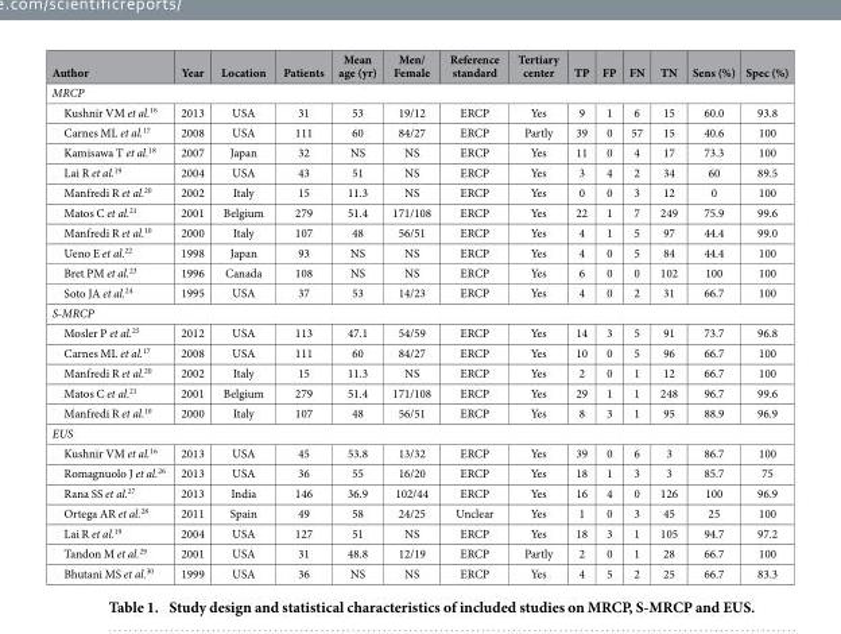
<table><thead><tr><td>Author</td><td>Year</td><td>Location</td><td>Patients</td><td>Mean age (yr)</td><td>Men/ Female</td><td>Reference standard</td><td>Tertiary center</td><td>TP</td><td>FP</td><td>FN</td><td>TN</td><td>Sens (%)</td><td>Spec (%)</td></tr></thead><tbody><tr><td colspan="14">MRCP</td></tr><tr><td>Kushnir VM et al.<sup>16</sup></td><td>2013</td><td>USA</td><td>31</td><td>53</td><td>19/12</td><td>ERCP</td><td>Yes</td><td>9</td><td>1</td><td>6</td><td>15</td><td>60.0</td><td>93.8</td></tr><tr><td>Carnes ML et al.<sup>17</sup></td><td>2008</td><td>USA</td><td>111</td><td>60</td><td>84/27</td><td>ERCP</td><td>Partly</td><td>39</td><td>0</td><td>57</td><td>15</td><td>40.6</td><td>100</td></tr><tr><td>Kamisawa T et al.<sup>18</sup></td><td>2007</td><td>Japan</td><td>32</td><td>NS</td><td>NS</td><td>ERCP</td><td>Yes</td><td>11</td><td>0</td><td>4</td><td>17</td><td>73.3</td><td>100</td></tr><tr><td>Lai R et al.<sup>19</sup></td><td>2004</td><td>USA</td><td>43</td><td>51</td><td>NS</td><td>ERCP</td><td>Yes</td><td>3</td><td>4</td><td>2</td><td>34</td><td>60</td><td>89.5</td></tr><tr><td>Manfredi R et al.<sup>20</sup></td><td>2002</td><td>Italy</td><td>15</td><td>11.3</td><td>NS</td><td>ERCP</td><td>Yes</td><td>0</td><td>0</td><td>3</td><td>12</td><td>0</td><td>100</td></tr><tr><td>Matos C et al.<sup>21</sup></td><td>2001</td><td>Belgium</td><td>279</td><td>51.4</td><td>171/108</td><td>ERCP</td><td>Yes</td><td>22</td><td>1</td><td>7</td><td>249</td><td>75.9</td><td>99.6</td></tr><tr><td>Manfredi R et al.<sup>10</sup></td><td>2000</td><td>Italy</td><td>107</td><td>48</td><td>56/51</td><td>ERCP</td><td>Yes</td><td>4</td><td>1</td><td>5</td><td>97</td><td>44.4</td><td>99.0</td></tr><tr><td>Ueno E et al.<sup>22</sup></td><td>1998</td><td>Japan</td><td>93</td><td>NS</td><td>NS</td><td>ERCP</td><td>Yes</td><td>4</td><td>0</td><td>5</td><td>84</td><td>44.4</td><td>100</td></tr><tr><td>Bret PM et al.<sup>23</sup></td><td>1996</td><td>Canada</td><td>108</td><td>NS</td><td>NS</td><td>ERCP</td><td>Yes</td><td>6</td><td>0</td><td>0</td><td>102</td><td>100</td><td>100</td></tr><tr><td>Soto JA et al.<sup>24</sup></td><td>1995</td><td>USA</td><td>37</td><td>53</td><td>14/23</td><td>ERCP</td><td>Yes</td><td>4</td><td>0</td><td>2</td><td>31</td><td>66.7</td><td>100</td></tr><tr><td colspan="14">S-MRCP</td></tr><tr><td>Mosler P et al.<sup>25</sup></td><td>2012</td><td>USA</td><td>113</td><td>47.1</td><td>54/59</td><td>ERCP</td><td>Yes</td><td>14</td><td>3</td><td>5</td><td>91</td><td>73.7</td><td>96.8</td></tr><tr><td>Carnes ML et al.<sup>17</sup></td><td>2008</td><td>USA</td><td>111</td><td>60</td><td>84/27</td><td>ERCP</td><td>Yes</td><td>10</td><td>0</td><td>5</td><td>96</td><td>66.7</td><td>100</td></tr><tr><td>Manfredi R et al.<sup>20</sup></td><td>2002</td><td>Italy</td><td>15</td><td>11.3</td><td>NS</td><td>ERCP</td><td>Yes</td><td>2</td><td>0</td><td>1</td><td>12</td><td>66.7</td><td>100</td></tr><tr><td>Matos C et al.<sup>21</sup></td><td>2001</td><td>Belgium</td><td>279</td><td>51.4</td><td>171/108</td><td>ERCP</td><td>Yes</td><td>29</td><td>1</td><td>1</td><td>248</td><td>96.7</td><td>99.6</td></tr><tr><td>Manfredi R et al.<sup>10</sup></td><td>2000</td><td>Italy</td><td>107</td><td>48</td><td>56/51</td><td>ERCP</td><td>Yes</td><td>8</td><td>3</td><td>1</td><td>95</td><td>88.9</td><td>96.9</td></tr><tr><td colspan="14">EUS</td></tr><tr><td>Kushnir VM et al.<sup>16</sup></td><td>2013</td><td>USA</td><td>45</td><td>53.8</td><td>13/32</td><td>ERCP</td><td>Yes</td><td>39</td><td>0</td><td>6</td><td>3</td><td>86.7</td><td>100</td></tr><tr><td>Romagnuolo J et al.<sup>26</sup></td><td>2013</td><td>USA</td><td>36</td><td>55</td><td>16/20</td><td>ERCP</td><td>Yes</td><td>18</td><td>1</td><td>3</td><td>3</td><td>85.7</td><td>75</td></tr><tr><td>Rana SS et al.<sup>27</sup></td><td>2013</td><td>India</td><td>146</td><td>36.9</td><td>102/44</td><td>ERCP</td><td>Yes</td><td>16</td><td>4</td><td>0</td><td>126</td><td>100</td><td>96.9</td></tr><tr><td>Ortega AR et al.<sup>28</sup></td><td>2011</td><td>Spain</td><td>49</td><td>58</td><td>24/25</td><td>Unclear</td><td>Yes</td><td>1</td><td>0</td><td>3</td><td>45</td><td>25</td><td>100</td></tr><tr><td>Lai R et al.<sup>19</sup></td><td>2004</td><td>USA</td><td>127</td><td>51</td><td>NS</td><td>ERCP</td><td>Yes</td><td>18</td><td>3</td><td>1</td><td>105</td><td>94.7</td><td>97.2</td></tr><tr><td>Tandon M et al.<sup>29</sup></td><td>2001</td><td>USA</td><td>31</td><td>48.8</td><td>12/19</td><td>ERCP</td><td>Partly</td><td>2</td><td>0</td><td>1</td><td>28</td><td>66.7</td><td>100</td></tr><tr><td>Bhutani MS et al.<sup>30</sup></td><td>1999</td><td>USA</td><td>36</td><td>NS</td><td>NS</td><td>ERCP</td><td>Yes</td><td>4</td><td>5</td><td>2</td><td>25</td><td>66.7</td><td>83.3</td></tr></tbody></table>